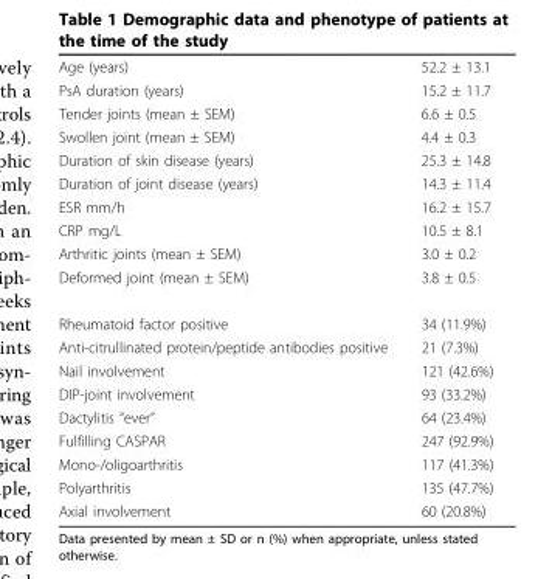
<table><tbody><tr><td>Age (years)</td><td>52.2 ± 13.1</td></tr><tr><td>PsA duration (years)</td><td>15.2 ± 11.7</td></tr><tr><td>Tender joints (mean ± SEM)</td><td>6.6 ± 0.5</td></tr><tr><td>Swollen joint (mean ± SEM)</td><td>4.4 ± 0.3</td></tr><tr><td>Duration of skin disease (years)</td><td>25.3 ± 14.8</td></tr><tr><td>Duration of joint disease (years)</td><td>14.3 ± 11.4</td></tr><tr><td>ESR mm/h</td><td>16.2 ± 15.7</td></tr><tr><td>CRP mg/L</td><td>10.5 ± 8.1</td></tr><tr><td>Arthritic joints (mean ± SEM)</td><td>3.0 ± 0.2</td></tr><tr><td>Deformed joint (mean ± SEM)</td><td>3.8 ± 0.5</td></tr><tr><td>Rheumatoid factor positive</td><td>34 (11.9%)</td></tr><tr><td>Anti-citrullinated protein/peptide antibodies positive</td><td>21 (7.3%)</td></tr><tr><td>Nail involvement</td><td>121 (42.6%)</td></tr><tr><td>DIP-joint involvement</td><td>93 (33.2%)</td></tr><tr><td>Dactylitis “ever”</td><td>64 (23.4%)</td></tr><tr><td>Fulfilling CASPAR</td><td>247 (92.9%)</td></tr><tr><td>Mono-/oligoarthritis</td><td>117 (41.3%)</td></tr><tr><td>Polyarthritis</td><td>135 (47.7%)</td></tr><tr><td>Axial involvement</td><td>60 (20.8%)</td></tr></tbody></table>